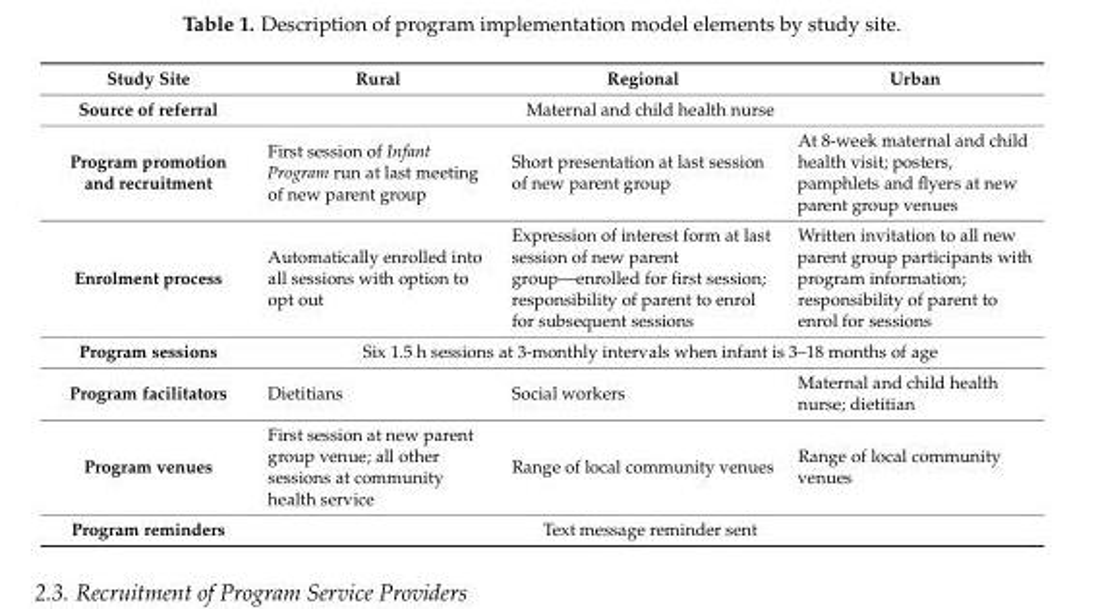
<table><thead><tr><td>Study Site</td><td>Rural</td><td>Regional</td><td>Urban</td></tr></thead><tbody><tr><td>Source of referral</td><td colspan="3">Maternal and child health nurse</td></tr><tr><td>Program promotion and recruitment</td><td>First session of Infant Program run at last meeting of new parent group</td><td>Short presentation at last session of new parent group</td><td>At 8-week maternal and child health visit; posters, pamphlets and flyers at new parent group venues</td></tr><tr><td>Enrolment process</td><td>Automatically enrolled into all sessions with option to opt out</td><td>Expression of interest form at last session of new parent group—enrolled for first session; responsibility of parent to enrol for subsequent sessions</td><td>Written invitation to all new parent group participants with program information; responsibility of parent to enrol for sessions</td></tr><tr><td>Program sessions</td><td colspan="3">Six 1.5 h sessions at 3-monthly intervals when infant is 3–18 months of age</td></tr><tr><td>Program facilitators</td><td>Dietitians</td><td>Social workers</td><td>Maternal and child health nurse; dietitian</td></tr><tr><td>Program venues</td><td>First session at new parent group venue; all other sessions at community health service</td><td>Range of local community venues</td><td>Range of local community venues</td></tr><tr><td>Program reminders</td><td colspan="3">Text message reminder sent</td></tr></tbody></table>